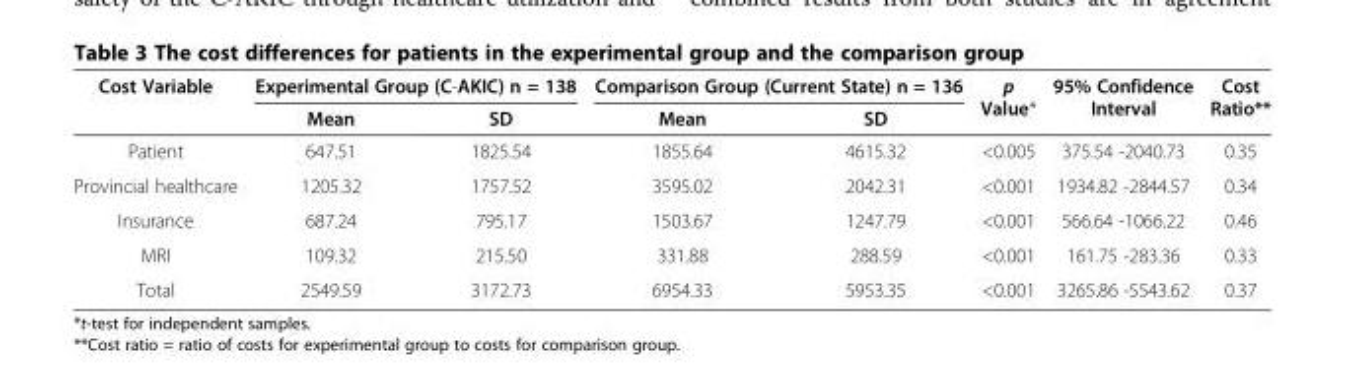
<table><thead><tr><td rowspan="2">Cost Variable</td><td colspan="2">Experimental Group (C-AKIC) n = 138</td><td colspan="2">Comparison Group (Current State) n = 136</td><td rowspan="2">p Value*</td><td rowspan="2">95% Confidence Interval</td><td rowspan="2">Cost Ratio**</td></tr><tr><td>Mean</td><td>SD</td><td>Mean</td><td>SD</td></tr></thead><tbody><tr><td>Patient</td><td>647.51</td><td>1825.54</td><td>1855.64</td><td>4615.32</td><td>&lt;0.005</td><td>375.54 -2040.73</td><td>0.35</td></tr><tr><td>Provincial healthcare</td><td>1205.32</td><td>1757.52</td><td>3595.02</td><td>2042.31</td><td>&lt;0.001</td><td>1934.82 -2844.57</td><td>0.34</td></tr><tr><td>Insurance</td><td>687.24</td><td>795.17</td><td>1503.67</td><td>1247.79</td><td>&lt;0.001</td><td>566.64 -1066.22</td><td>0.46</td></tr><tr><td>MRI</td><td>109.32</td><td>215.50</td><td>331.88</td><td>288.59</td><td>&lt;0.001</td><td>161.75 -283.36</td><td>0.33</td></tr><tr><td>Total</td><td>2549.59</td><td>3172.73</td><td>6954.33</td><td>5953.35</td><td>&lt;0.001</td><td>3265.86 -5543.62</td><td>0.37</td></tr></tbody></table>